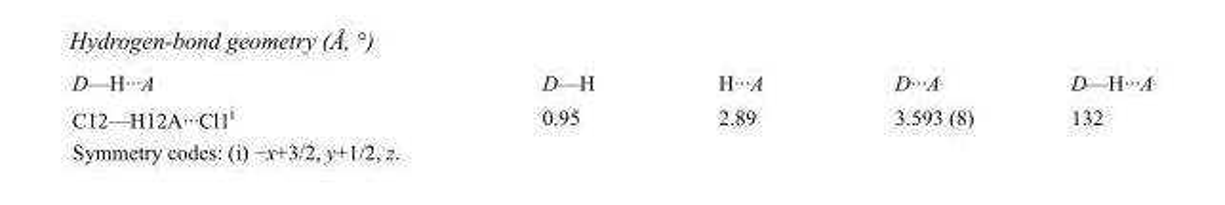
<table><tbody><tr><td>D—H···A</td><td>D—H</td><td>H···A</td><td>D···A</td><td>D—H···A</td></tr><tr><td>C12—H12A···Cl1<sup>i</sup></td><td>0.95</td><td>2.89</td><td>3.593 (8)</td><td>132</td></tr></tbody></table>